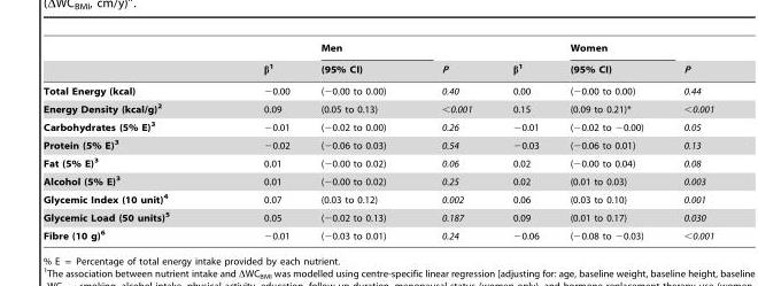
<table><thead><tr><td rowspan="2"></td><td rowspan="2">β<sup>1</sup></td><td rowspan="2">Men (95% CI)</td><td rowspan="2">P</td><td rowspan="2">β<sup>1</sup></td><td rowspan="2">Women (95% CI)</td><td rowspan="2">P</td></tr><tr></tr></thead><tbody><tr><td>Total Energy (kcal)</td><td>−0.00</td><td>(−0.00 to 0.00)</td><td>0.40</td><td>0.00</td><td>(−0.00 to 0.00)</td><td>0.44</td></tr><tr><td>Energy Density (kcal/g)2</td><td>0.09</td><td>(0.05 to 0.13)</td><td>&lt;0.001</td><td>0.15</td><td>(0.09 to 0.21)*</td><td>&lt;0.001</td></tr><tr><td>Carbohydrates (5% E)3</td><td>−0.01</td><td>(−0.02 to 0.00)</td><td>0.26</td><td>−0.01</td><td>(−0.02 to −0.00)</td><td>0.05</td></tr><tr><td>Protein (5% E)3</td><td>−0.02</td><td>(−0.06 to 0.03)</td><td>0.54</td><td>−0.03</td><td>(−0.06 to 0.01)</td><td>0.13</td></tr><tr><td>Fat (5% E)3</td><td>0.01</td><td>(−0.00 to 0.02)</td><td>0.06</td><td>0.02</td><td>(−0.00 to 0.04)</td><td>0.08</td></tr><tr><td>Alcohol (5% E)3</td><td>0.01</td><td>(−0.00 to 0.02)</td><td>0.25</td><td>0.02</td><td>(0.01 to 0.03)</td><td>0.003</td></tr><tr><td>Glycemic Index (10 unit)4</td><td>0.07</td><td>(0.03 to 0.12)</td><td>0.002</td><td>0.06</td><td>(0.03 to 0.10)</td><td>0.001</td></tr><tr><td>Glycemic Load (50 units)5</td><td>0.05</td><td>(−0.02 to 0.13)</td><td>0.187</td><td>0.09</td><td>(0.01 to 0.17)</td><td>0.030</td></tr><tr><td>Fibre (10 g)6</td><td>−0.01</td><td>(−0.03 to 0.01)</td><td>0.24</td><td>−0.06</td><td>(−0.08 to −0.03)</td><td>&lt;0.001</td></tr></tbody></table>